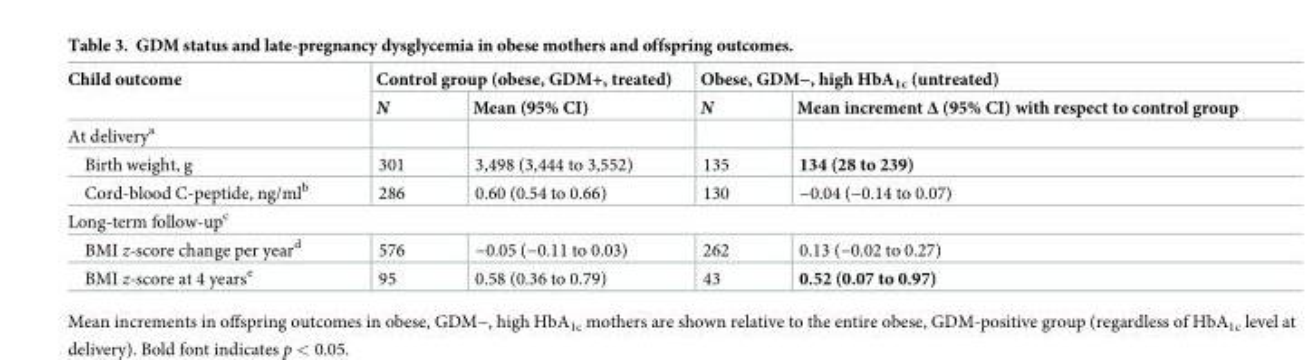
<table><thead><tr><td rowspan="2">Child outcome</td><td colspan="2">Control group (obese, GDM+, treated)</td><td colspan="2">Obese, GDM−, high HbA<sub>1c</sub> (untreated)</td></tr><tr><td>N</td><td>Mean (95% CI)</td><td>N</td><td>Mean increment Δ (95% CI) with respect to control group</td></tr></thead><tbody><tr><td colspan="5">At delivery<sup>a</sup></td></tr><tr><td>Birth weight, g</td><td>301</td><td>3,498 (3,444 to 3,552)</td><td>135</td><td>134 (28 to 239)</td></tr><tr><td>Cord-blood C-peptide, ng/ml<sup>b</sup></td><td>286</td><td>0.60 (0.54 to 0.66)</td><td>130</td><td>−0.04 (−0.14 to 0.07)</td></tr><tr><td colspan="5">Long-term follow-up<sup>c</sup></td></tr><tr><td>BMI z-score change per year<sup>d</sup></td><td>576</td><td>−0.05 (−0.11 to 0.03)</td><td>262</td><td>0.13 (−0.02 to 0.27)</td></tr><tr><td>BMI z-score at 4 years<sup>e</sup></td><td>95</td><td>0.58 (0.36 to 0.79)</td><td>43</td><td>0.52 (0.07 to 0.97)</td></tr></tbody></table>